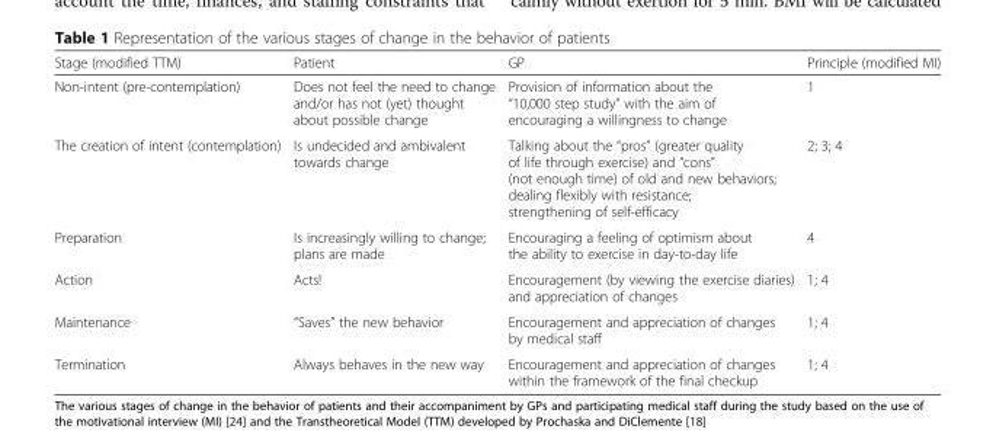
<table><thead><tr><td>Stage (modified TTM)</td><td>Patient</td><td>GP</td><td>Principle (modified MI)</td></tr></thead><tbody><tr><td>Non-intent (pre-contemplation)</td><td>Does not feel the need to change and/or has not (yet) thought about possible change</td><td>Provision of information about the “10,000 step study” with the aim of encouraging a willingness to change</td><td>1</td></tr><tr><td>The creation of intent (contemplation)</td><td>Is undecided and ambivalent towards change</td><td>Talking about the “pros” (greater quality of life through exercise) and “cons” (not enough time) of old and new behaviors; dealing flexibly with resistance; strengthening of self-efficacy</td><td>2; 3; 4</td></tr><tr><td>Preparation</td><td>Is increasingly willing to change; plans are made</td><td>Encouraging a feeling of optimism about the ability to exercise in day-to-day life</td><td>4</td></tr><tr><td>Action</td><td>Acts!</td><td>Encouragement (by viewing the exercise diaries) and appreciation of changes</td><td>1; 4</td></tr><tr><td>Maintenance</td><td>“Saves” the new behavior</td><td>Encouragement and appreciation of changes by medical staff</td><td>1; 4</td></tr><tr><td>Termination</td><td>Always behaves in the new way</td><td>Encouragement and appreciation of changes within the framework of the final checkup</td><td>1; 4</td></tr></tbody></table>